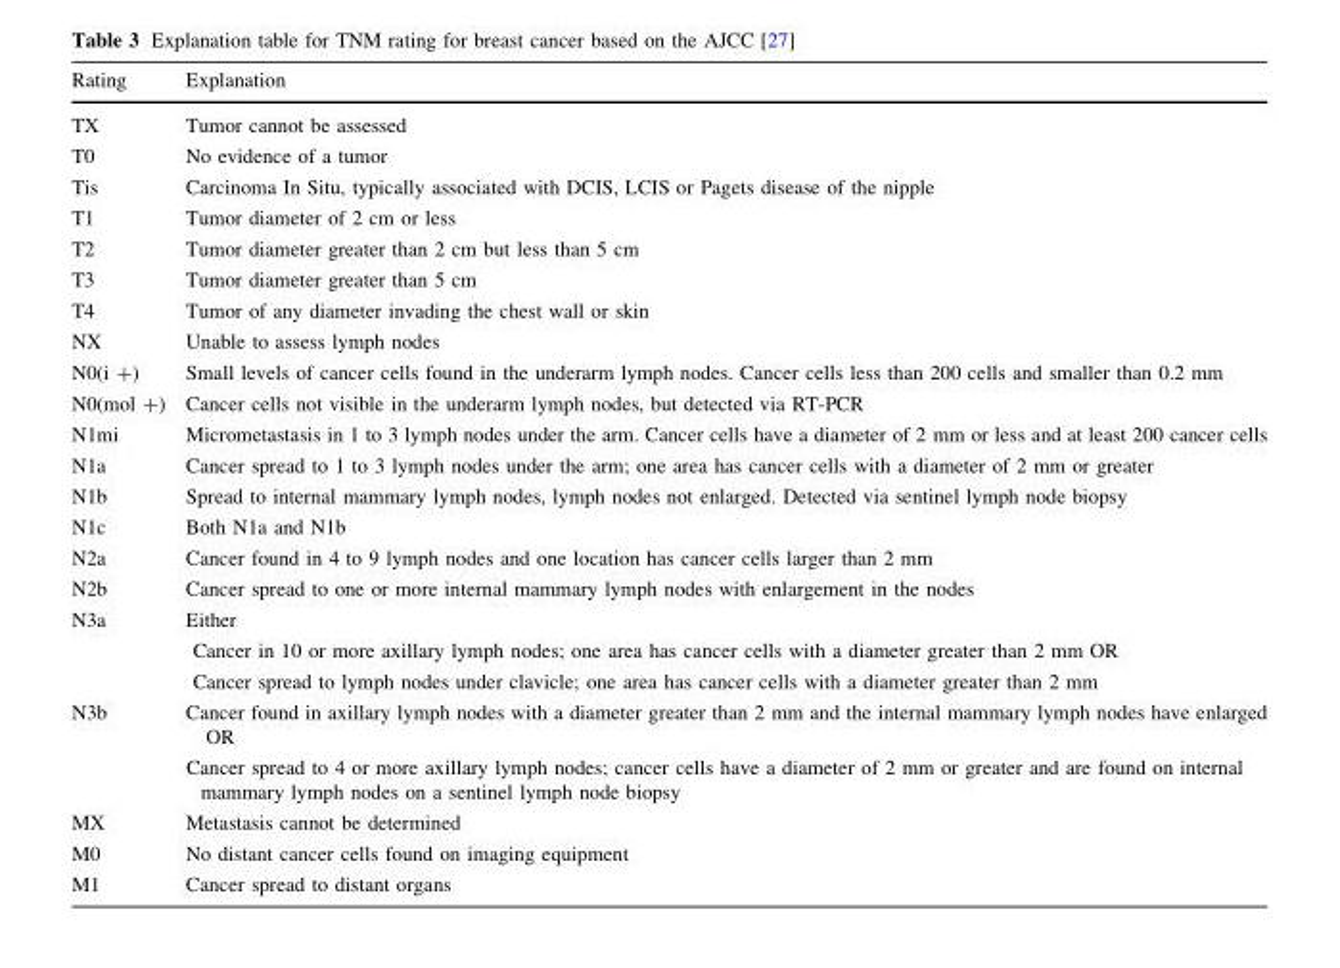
<table><thead><tr><td>Rating</td><td>Explanation</td></tr></thead><tbody><tr><td>TX</td><td>Tumor cannot be assessed</td></tr><tr><td>T0</td><td>No evidence of a tumor</td></tr><tr><td>Tis</td><td>Carcinoma In Situ, typically associated with DCIS, LCIS or Pagets disease of the nipple</td></tr><tr><td>T1</td><td>Tumor diameter of 2 cm or less</td></tr><tr><td>T2</td><td>Tumor diameter greater than 2 cm but less than 5 cm</td></tr><tr><td>T3</td><td>Tumor diameter greater than 5 cm</td></tr><tr><td>T4</td><td>Tumor of any diameter invading the chest wall or skin</td></tr><tr><td>NX</td><td>Unable to assess lymph nodes</td></tr><tr><td>N0(i +)</td><td>Small levels of cancer cells found in the underarm lymph nodes. Cancer cells less than 200 cells and smaller than 0.2 mm</td></tr><tr><td>N0(mol +)</td><td>Cancer cells not visible in the underarm lymph nodes, but detected via RT-PCR</td></tr><tr><td>N1mi</td><td>Micrometastasis in 1 to 3 lymph nodes under the arm. Cancer cells have a diameter of 2 mm or less and at least 200 cancer cells</td></tr><tr><td>N1a</td><td>Cancer spread to 1 to 3 lymph nodes under the arm; one area has cancer cells with a diameter of 2 mm or greater</td></tr><tr><td>N1b</td><td>Spread to internal mammary lymph nodes, lymph nodes not enlarged. Detected via sentinel lymph node biopsy</td></tr><tr><td>N1c</td><td>Both N1a and N1b</td></tr><tr><td>N2a</td><td>Cancer found in 4 to 9 lymph nodes and one location has cancer cells larger than 2 mm</td></tr><tr><td>N2b</td><td>Cancer spread to one or more internal mammary lymph nodes with enlargement in the nodes</td></tr><tr><td>N3a</td><td>Either Cancer in 10 or more axillary lymph nodes; one area has cancer cells with a diameter greater than 2 mm OR Cancer spread to lymph nodes under clavicle; one area has cancer cells with a diameter greater than 2 mm</td></tr><tr><td>N3b</td><td>Cancer found in axillary lymph nodes with a diameter greater than 2 mm and the internal mammary lymph nodes have enlarged OR Cancer spread to 4 or more axillary lymph nodes; cancer cells have a diameter of 2 mm or greater and are found on internal mammary lymph nodes on a sentinel lymph node biopsy</td></tr><tr><td>MX</td><td>Metastasis cannot be determined</td></tr><tr><td>M0</td><td>No distant cancer cells found on imaging equipment</td></tr><tr><td>M1</td><td>Cancer spread to distant organs</td></tr></tbody></table>